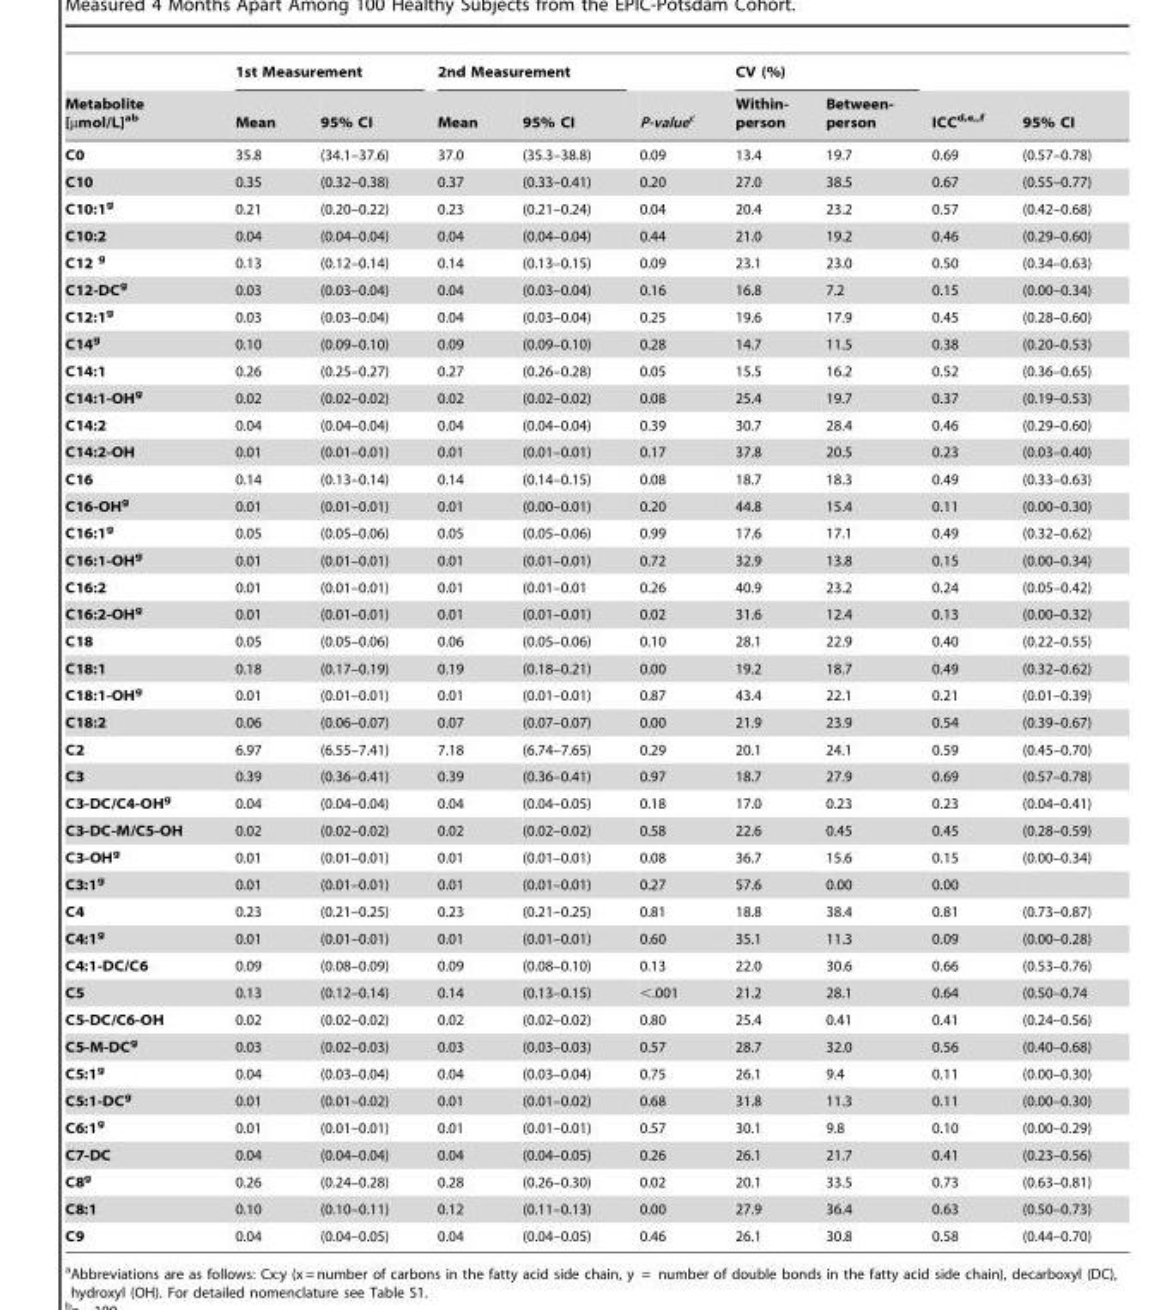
<table><thead><tr><td rowspan="2">Metabolite [µmol/L]<sup>ab</sup></td><td colspan="2">1st Measurement</td><td colspan="2">2nd Measurement</td><td rowspan="2">P-valuec</td><td colspan="2">CV (%)</td><td rowspan="2">ICC<sup>d,</sup>e<sup>,</sup>,f</td><td rowspan="2">95% CI</td></tr><tr><td>Mean</td><td>95% CI</td><td>Mean</td><td>95% CI</td><td>Within- person</td><td>Between- person</td></tr></thead><tbody><tr><td>C0</td><td>35.8</td><td>(34.1–37.6)</td><td>37.0</td><td>(35.3–38.8)</td><td>0.09</td><td>13.4</td><td>19.7</td><td>0.69</td><td>(0.57–0.78)</td></tr><tr><td>C10</td><td>0.35</td><td>(0.32–0.38)</td><td>0.37</td><td>(0.33–0.41)</td><td>0.20</td><td>27.0</td><td>38.5</td><td>0.67</td><td>(0.55–0.77)</td></tr><tr><td>C10:1g</td><td>0.21</td><td>(0.20–0.22)</td><td>0.23</td><td>(0.21–0.24)</td><td>0.04</td><td>20.4</td><td>23.2</td><td>0.57</td><td>(0.42–0.68)</td></tr><tr><td>C10:2</td><td>0.04</td><td>(0.04–0.04)</td><td>0.04</td><td>(0.04–0.04)</td><td>0.44</td><td>21.0</td><td>19.2</td><td>0.46</td><td>(0.29–0.60)</td></tr><tr><td>C12 g</td><td>0.13</td><td>(0.12–0.14)</td><td>0.14</td><td>(0.13–0.15)</td><td>0.09</td><td>23.1</td><td>23.0</td><td>0.50</td><td>(0.34–0.63)</td></tr><tr><td>C12-DCg</td><td>0.03</td><td>(0.03–0.04)</td><td>0.04</td><td>(0.03–0.04)</td><td>0.16</td><td>16.8</td><td>7.2</td><td>0.15</td><td>(0.00–0.34)</td></tr><tr><td>C12:1g</td><td>0.03</td><td>(0.03–0.04)</td><td>0.04</td><td>(0.03–0.04)</td><td>0.25</td><td>19.6</td><td>17.9</td><td>0.45</td><td>(0.28–0.60)</td></tr><tr><td>C14g</td><td>0.10</td><td>(0.09–0.10)</td><td>0.09</td><td>(0.09–0.10)</td><td>0.28</td><td>14.7</td><td>11.5</td><td>0.38</td><td>(0.20–0.53)</td></tr><tr><td>C14:1</td><td>0.26</td><td>(0.25–0.27)</td><td>0.27</td><td>(0.26–0.28)</td><td>0.05</td><td>15.5</td><td>16.2</td><td>0.52</td><td>(0.36–0.65)</td></tr><tr><td>C14:1-OHg</td><td>0.02</td><td>(0.02–0.02)</td><td>0.02</td><td>(0.02–0.02)</td><td>0.08</td><td>25.4</td><td>19.7</td><td>0.37</td><td>(0.19–0.53)</td></tr><tr><td>C14:2</td><td>0.04</td><td>(0.04–0.04)</td><td>0.04</td><td>(0.04–0.04)</td><td>0.39</td><td>30.7</td><td>28.4</td><td>0.46</td><td>(0.29–0.60)</td></tr><tr><td>C14:2-OH</td><td>0.01</td><td>(0.01–0.01)</td><td>0.01</td><td>(0.01–0.01)</td><td>0.17</td><td>37.8</td><td>20.5</td><td>0.23</td><td>(0.03–0.40)</td></tr><tr><td>C16</td><td>0.14</td><td>(0.13–0.14)</td><td>0.14</td><td>(0.14–0.15)</td><td>0.08</td><td>18.7</td><td>18.3</td><td>0.49</td><td>(0.33–0.63)</td></tr><tr><td>C16-OHg</td><td>0.01</td><td>(0.01–0.01)</td><td>0.01</td><td>(0.00–0.01)</td><td>0.20</td><td>44.8</td><td>15.4</td><td>0.11</td><td>(0.00–0.30)</td></tr><tr><td>C16:1g</td><td>0.05</td><td>(0.05–0.06)</td><td>0.05</td><td>(0.05–0.06)</td><td>0.99</td><td>17.6</td><td>17.1</td><td>0.49</td><td>(0.32–0.62)</td></tr><tr><td>C16:1-OHg</td><td>0.01</td><td>(0.01–0.01)</td><td>0.01</td><td>(0.01–0.01)</td><td>0.72</td><td>32.9</td><td>13.8</td><td>0.15</td><td>(0.00–0.34)</td></tr><tr><td>C16:2</td><td>0.01</td><td>(0.01–0.01)</td><td>0.01</td><td>(0.01–0.01</td><td>0.26</td><td>40.9</td><td>23.2</td><td>0.24</td><td>(0.05–0.42)</td></tr><tr><td>C16:2-OHg</td><td>0.01</td><td>(0.01–0.01)</td><td>0.01</td><td>(0.01–0.01)</td><td>0.02</td><td>31.6</td><td>12.4</td><td>0.13</td><td>(0.00–0.32)</td></tr><tr><td>C18</td><td>0.05</td><td>(0.05–0.06)</td><td>0.06</td><td>(0.05–0.06)</td><td>0.10</td><td>28.1</td><td>22.9</td><td>0.40</td><td>(0.22–0.55)</td></tr><tr><td>C18:1</td><td>0.18</td><td>(0.17–0.19)</td><td>0.19</td><td>(0.18–0.21)</td><td>0.00</td><td>19.2</td><td>18.7</td><td>0.49</td><td>(0.32–0.62)</td></tr><tr><td>C18:1-OHg</td><td>0.01</td><td>(0.01–0.01)</td><td>0.01</td><td>(0.01–0.01)</td><td>0.87</td><td>43.4</td><td>22.1</td><td>0.21</td><td>(0.01–0.39)</td></tr><tr><td>C18:2</td><td>0.06</td><td>(0.06–0.07)</td><td>0.07</td><td>(0.07–0.07)</td><td>0.00</td><td>21.9</td><td>23.9</td><td>0.54</td><td>(0.39–0.67)</td></tr><tr><td>C2</td><td>6.97</td><td>(6.55–7.41)</td><td>7.18</td><td>(6.74–7.65)</td><td>0.29</td><td>20.1</td><td>24.1</td><td>0.59</td><td>(0.45–0.70)</td></tr><tr><td>C3</td><td>0.39</td><td>(0.36–0.41)</td><td>0.39</td><td>(0.36–0.41)</td><td>0.97</td><td>18.7</td><td>27.9</td><td>0.69</td><td>(0.57–0.78)</td></tr><tr><td>C3-DC/C4-OHg</td><td>0.04</td><td>(0.04–0.04)</td><td>0.04</td><td>(0.04–0.05)</td><td>0.18</td><td>17.0</td><td>0.23</td><td>0.23</td><td>(0.04–0.41)</td></tr><tr><td>C3-DC-M/C5-OH</td><td>0.02</td><td>(0.02–0.02)</td><td>0.02</td><td>(0.02–0.02)</td><td>0.58</td><td>22.6</td><td>0.45</td><td>0.45</td><td>(0.28–0.59)</td></tr><tr><td>C3-OHg</td><td>0.01</td><td>(0.01–0.01)</td><td>0.01</td><td>(0.01–0.01)</td><td>0.08</td><td>36.7</td><td>15.6</td><td>0.15</td><td>(0.00–0.34)</td></tr><tr><td>C3:1g</td><td>0.01</td><td>(0.01–0.01)</td><td>0.01</td><td>(0.01–0.01)</td><td>0.27</td><td>57.6</td><td>0.00</td><td>0.00</td><td></td></tr><tr><td>C4</td><td>0.23</td><td>(0.21–0.25)</td><td>0.23</td><td>(0.21–0.25)</td><td>0.81</td><td>18.8</td><td>38.4</td><td>0.81</td><td>(0.73–0.87)</td></tr><tr><td>C4:1g</td><td>0.01</td><td>(0.01–0.01)</td><td>0.01</td><td>(0.01–0.01)</td><td>0.60</td><td>35.1</td><td>11.3</td><td>0.09</td><td>(0.00–0.28)</td></tr><tr><td>C4:1-DC/C6</td><td>0.09</td><td>(0.08–0.09)</td><td>0.09</td><td>(0.08–0.10)</td><td>0.13</td><td>22.0</td><td>30.6</td><td>0.66</td><td>(0.53–0.76)</td></tr><tr><td>C5</td><td>0.13</td><td>(0.12–0.14)</td><td>0.14</td><td>(0.13–0.15)</td><td>&lt;.001</td><td>21.2</td><td>28.1</td><td>0.64</td><td>(0.50–0.74</td></tr><tr><td>C5-DC/C6-OH</td><td>0.02</td><td>(0.02–0.02)</td><td>0.02</td><td>(0.02–0.02)</td><td>0.80</td><td>25.4</td><td>0.41</td><td>0.41</td><td>(0.24–0.56)</td></tr><tr><td>C5-M-DCg</td><td>0.03</td><td>(0.02–0.03)</td><td>0.03</td><td>(0.03–0.03)</td><td>0.57</td><td>28.7</td><td>32.0</td><td>0.56</td><td>(0.40–0.68)</td></tr><tr><td>C5:1g</td><td>0.04</td><td>(0.03–0.04)</td><td>0.04</td><td>(0.03–0.04)</td><td>0.75</td><td>26.1</td><td>9.4</td><td>0.11</td><td>(0.00–0.30)</td></tr><tr><td>C5:1-DCg</td><td>0.01</td><td>(0.01–0.02)</td><td>0.01</td><td>(0.01–0.02)</td><td>0.68</td><td>31.8</td><td>11.3</td><td>0.11</td><td>(0.00–0.30)</td></tr><tr><td>C6:1g</td><td>0.01</td><td>(0.01–0.01)</td><td>0.01</td><td>(0.01–0.01)</td><td>0.57</td><td>30.1</td><td>9.8</td><td>0.10</td><td>(0.00–0.29)</td></tr><tr><td>C7-DC</td><td>0.04</td><td>(0.04–0.04)</td><td>0.04</td><td>(0.04–0.05)</td><td>0.26</td><td>26.1</td><td>21.7</td><td>0.41</td><td>(0.23–0.56)</td></tr><tr><td>C8g</td><td>0.26</td><td>(0.24–0.28)</td><td>0.28</td><td>(0.26–0.30)</td><td>0.02</td><td>20.1</td><td>33.5</td><td>0.73</td><td>(0.63–0.81)</td></tr><tr><td>C8:1</td><td>0.10</td><td>(0.10–0.11)</td><td>0.12</td><td>(0.11–0.13)</td><td>0.00</td><td>27.9</td><td>36.4</td><td>0.63</td><td>(0.50–0.73)</td></tr><tr><td>C9</td><td>0.04</td><td>(0.04–0.05)</td><td>0.04</td><td>(0.04–0.05)</td><td>0.46</td><td>26.1</td><td>30.8</td><td>0.58</td><td>(0.44–0.70)</td></tr></tbody></table>